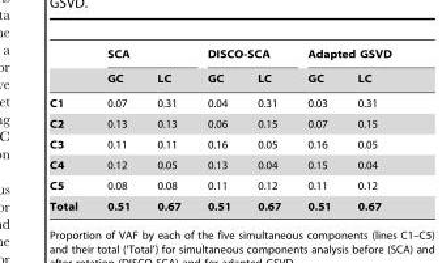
<table><thead><tr><td rowspan="2"></td><td colspan="2">SCA</td><td colspan="2">DISCO-SCA</td><td colspan="2">Adapted GSVD</td></tr><tr><td>GC</td><td>LC</td><td>GC</td><td>LC</td><td>GC</td><td>LC</td></tr></thead><tbody><tr><td>C1</td><td>0.07</td><td>0.31</td><td>0.04</td><td>0.31</td><td>0.03</td><td>0.31</td></tr><tr><td>C2</td><td>0.13</td><td>0.13</td><td>0.06</td><td>0.15</td><td>0.07</td><td>0.15</td></tr><tr><td>C3</td><td>0.11</td><td>0.11</td><td>0.16</td><td>0.05</td><td>0.16</td><td>0.05</td></tr><tr><td>C4</td><td>0.12</td><td>0.05</td><td>0.13</td><td>0.04</td><td>0.15</td><td>0.04</td></tr><tr><td>C5</td><td>0.08</td><td>0.08</td><td>0.11</td><td>0.12</td><td>0.11</td><td>0.12</td></tr><tr><td>Total</td><td>0.51</td><td>0.67</td><td>0.51</td><td>0.67</td><td>0.51</td><td>0.67</td></tr></tbody></table>